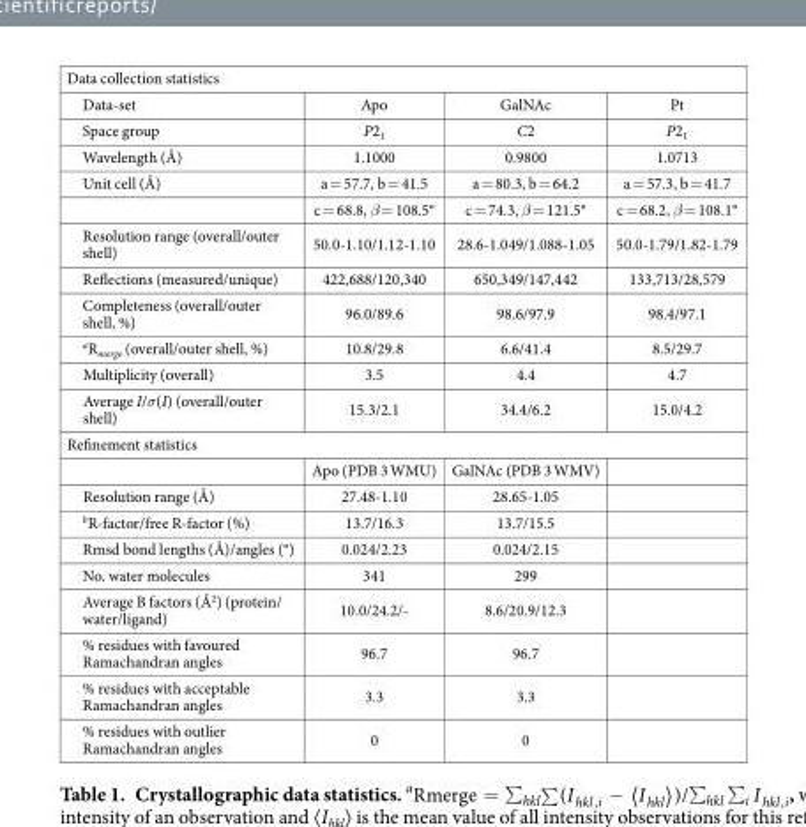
<table><tbody><tr><td colspan="4">Data collection statistics</td></tr><tr><td>Data-set</td><td>Apo</td><td>GalNAc</td><td>Pt</td></tr><tr><td>Space group</td><td>P2<sub>1</sub></td><td>C2</td><td>P2<sub>1</sub></td></tr><tr><td>Wavelength (Å)</td><td>1.1000</td><td>0.9800</td><td>1.0713</td></tr><tr><td rowspan="2">Unit cell (Å)</td><td>a = 57.7, b = 41.5</td><td>a = 80.3, b = 64.2</td><td>a = 57.3, b = 41.7</td></tr><tr><td>c = 68.8, β = 108.5°</td><td>c = 74.3, β = 121.5°</td><td>c = 68.2, β = 108.1°</td></tr><tr><td>Resolution range (overall/outer shell)</td><td>50.0-1.10/1.12-1.10</td><td>28.6-1.049/1.088-1.05</td><td>50.0-1.79/1.82-1.79</td></tr><tr><td>Reflections (measured/unique)</td><td>422,688/120,340</td><td>650,349/147,442</td><td>133,713/28,579</td></tr><tr><td>Completeness (overall/outer shell, %)</td><td>96.0/89.6</td><td>98.6/97.9</td><td>98.4/97.1</td></tr><tr><td><sup>a</sup>R<sub>merge</sub> (overall/outer shell, %)</td><td>10.8/29.8</td><td>6.6/41.4</td><td>8.5/29.7</td></tr><tr><td>Multiplicity (overall)</td><td>3.5</td><td>4.4</td><td>4.7</td></tr><tr><td>Average I/σ(I) (overall/outer shell)</td><td>15.3/2.1</td><td>34.4/6.2</td><td>15.0/4.2</td></tr><tr><td colspan="4">Refinement statistics</td></tr><tr><td></td><td>Apo (PDB 3 WMU)</td><td>GalNAc (PDB 3 WMV)</td><td></td></tr><tr><td>Resolution range (Å)</td><td>27.48-1.10</td><td>28.65-1.05</td><td></td></tr><tr><td><sup>b</sup>R-factor/free R-factor (%)</td><td>13.7/16.3</td><td>13.7/15.5</td><td></td></tr><tr><td>Rmsd bond lengths (Å)/angles (°)</td><td>0.024/2.23</td><td>0.024/2.15</td><td></td></tr><tr><td>No. water molecules</td><td>341</td><td>299</td><td></td></tr><tr><td>Average B factors (Å<sup>2</sup>) (protein/ water/ligand)</td><td>10.0/24.2/-</td><td>8.6/20.9/12.3</td><td></td></tr><tr><td>% residues with favoured Ramachandran angles</td><td>96.7</td><td>96.7</td><td></td></tr><tr><td>% residues with acceptable Ramachandran angles</td><td>3.3</td><td>3.3</td><td></td></tr><tr><td>% residues with outlier Ramachandran angles</td><td>0</td><td>0</td><td></td></tr></tbody></table>